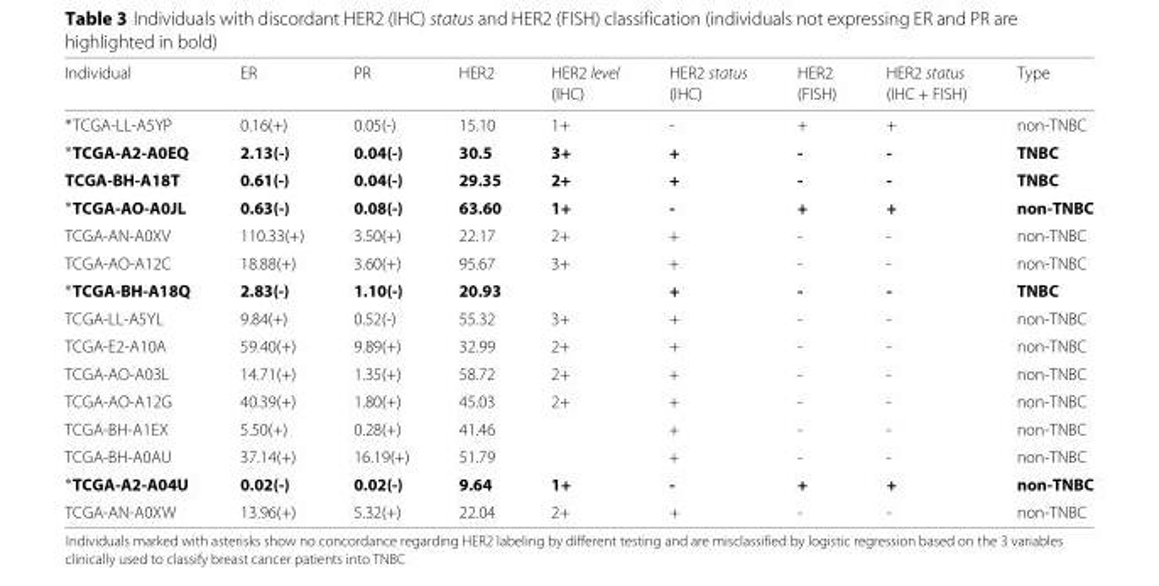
<table><thead><tr><td rowspan="2">Individual</td><td rowspan="2">ER</td><td rowspan="2">PR</td><td rowspan="2">HER2</td><td rowspan="2">HER2 level (IHC)</td><td rowspan="2">HER2 status (IHC)</td><td rowspan="2">HER2 (FISH)</td><td rowspan="2">HER2 status (IHC + FISH)</td><td rowspan="2">Type</td></tr><tr></tr></thead><tbody><tr><td>∗TCGA-LL-A5YP</td><td>0.16(+)</td><td>0.05(-)</td><td>15.10</td><td>1+</td><td>-</td><td>+</td><td>+</td><td>non-TNBC</td></tr><tr><td>∗TCGA-A2-A0EQ</td><td>2.13(-)</td><td>0.04(-)</td><td>30.5</td><td>3+</td><td>+</td><td>-</td><td>-</td><td>TNBC</td></tr><tr><td>TCGA-BH-A18T</td><td>0.61(-)</td><td>0.04(-)</td><td>29.35</td><td>2+</td><td>+</td><td>-</td><td>-</td><td>TNBC</td></tr><tr><td>∗TCGA-AO-A0JL</td><td>0.63(-)</td><td>0.08(-)</td><td>63.60</td><td>1+</td><td>-</td><td>+</td><td>+</td><td>non-TNBC</td></tr><tr><td>TCGA-AN-A0XV</td><td>110.33(+)</td><td>3.50(+)</td><td>22.17</td><td>2+</td><td>+</td><td>-</td><td>-</td><td>non-TNBC</td></tr><tr><td>TCGA-AO-A12C</td><td>18.88(+)</td><td>3.60(+)</td><td>95.67</td><td>3+</td><td>+</td><td>-</td><td>-</td><td>non-TNBC</td></tr><tr><td>∗TCGA-BH-A18Q</td><td>2.83(-)</td><td>1.10(-)</td><td>20.93</td><td></td><td>+</td><td>-</td><td>-</td><td>TNBC</td></tr><tr><td>TCGA-LL-A5YL</td><td>9.84(+)</td><td>0.52(-)</td><td>55.32</td><td>3+</td><td>+</td><td>-</td><td>-</td><td>non-TNBC</td></tr><tr><td>TCGA-E2-A10A</td><td>59.40(+)</td><td>9.89(+)</td><td>32.99</td><td>2+</td><td>+</td><td>-</td><td>-</td><td>non-TNBC</td></tr><tr><td>TCGA-AO-A03L</td><td>14.71(+)</td><td>1.35(+)</td><td>58.72</td><td>2+</td><td>+</td><td>-</td><td>-</td><td>non-TNBC</td></tr><tr><td>TCGA-AO-A12G</td><td>40.39(+)</td><td>1.80(+)</td><td>45.03</td><td>2+</td><td>+</td><td>-</td><td>-</td><td>non-TNBC</td></tr><tr><td>TCGA-BH-A1EX</td><td>5.50(+)</td><td>0.28(+)</td><td>41.46</td><td></td><td>+</td><td>-</td><td>-</td><td>non-TNBC</td></tr><tr><td>TCGA-BH-A0AU</td><td>37.14(+)</td><td>16.19(+)</td><td>51.79</td><td></td><td>+</td><td>-</td><td>-</td><td>non-TNBC</td></tr><tr><td>∗TCGA-A2-A04U</td><td>0.02(-)</td><td>0.02(-)</td><td>9.64</td><td>1+</td><td>-</td><td>+</td><td>+</td><td>non-TNBC</td></tr><tr><td>TCGA-AN-A0XW</td><td>13.96(+)</td><td>5.32(+)</td><td>22.04</td><td>2+</td><td>+</td><td>-</td><td>-</td><td>non-TNBC</td></tr></tbody></table>